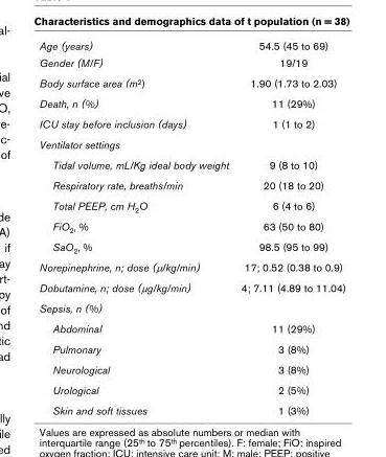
<table><tbody><tr><td>Age (years)</td><td>54.5 (45 to 69)</td></tr><tr><td>Gender (M/F)</td><td>19/19</td></tr><tr><td>Body surface area (m<sup>2</sup>)</td><td>1.90 (1.73 to 2.03)</td></tr><tr><td>Death, n (%)</td><td>11 (29%)</td></tr><tr><td>ICU stay before inclusion (days)</td><td>1 (1 to 2)</td></tr><tr><td colspan="2">Ventilator settings</td></tr><tr><td>Tidal volume, mL/Kg ideal body weight</td><td>9 (8 to 10)</td></tr><tr><td>Respiratory rate, breaths/min</td><td>20 (18 to 20)</td></tr><tr><td>Total PEEP, cm H<sub>2</sub>O</td><td>6 (4 to 6)</td></tr><tr><td>FiO<sub>2</sub>, %</td><td>63 (50 to 80)</td></tr><tr><td>SaO<sub>2</sub>, %</td><td>98.5 (95 to 99)</td></tr><tr><td>Norepinephrine, n; dose (μ/kg/min)</td><td>17; 0.52 (0.38 to 0.9)</td></tr><tr><td>Dobutamine, n; dose (μg/kg/min)</td><td>4; 7.11 (4.89 to 11.04)</td></tr><tr><td colspan="2">Sepsis, n (%)</td></tr><tr><td>Abdominal</td><td>11 (29%)</td></tr><tr><td>Pulmonary</td><td>3 (8%)</td></tr><tr><td>Neurological</td><td>3 (8%)</td></tr><tr><td>Urological</td><td>2 (5%)</td></tr><tr><td>Skin and soft tissues</td><td>1 (3%)</td></tr></tbody></table>